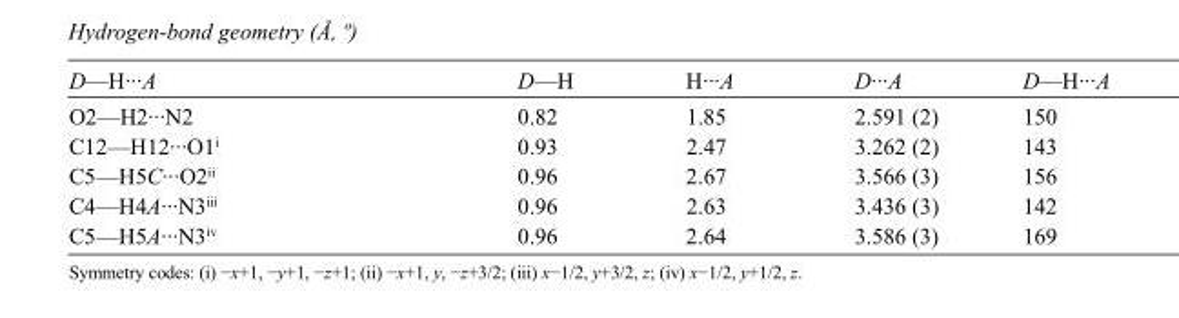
<table><tbody><tr><td>D—H···A</td><td>D—H</td><td>H···A</td><td>D···A</td><td>D—H···A</td></tr><tr><td>O2—H2···N2</td><td>0.82</td><td>1.85</td><td>2.591 (2)</td><td>150</td></tr><tr><td>C12—H12···O1<sup>i</sup></td><td>0.93</td><td>2.47</td><td>3.262 (2)</td><td>143</td></tr><tr><td>C5—H5C···O2<sup>ii</sup></td><td>0.96</td><td>2.67</td><td>3.566 (3)</td><td>156</td></tr><tr><td>C4—H4A···N3<sup>iii</sup></td><td>0.96</td><td>2.63</td><td>3.436 (3)</td><td>142</td></tr><tr><td>C5—H5A···N3<sup>iv</sup></td><td>0.96</td><td>2.64</td><td>3.586 (3)</td><td>169</td></tr></tbody></table>